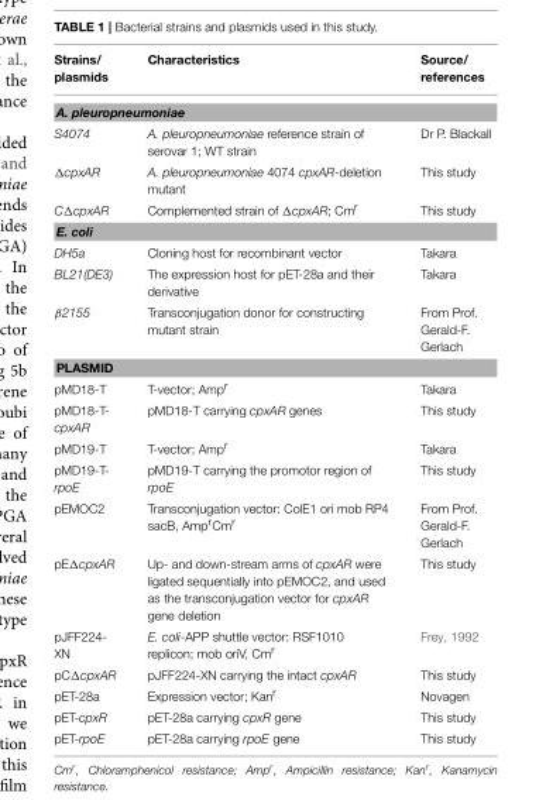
<table><thead><tr><td>Strains/ plasmids</td><td>Characteristics</td><td>Source/ references</td></tr></thead><tbody><tr><td colspan="3">A. pleuropneumoniae</td></tr><tr><td>S4074</td><td>A. pleuropneumoniae reference strain of serovar 1; WT strain</td><td>Dr P. Blackall</td></tr><tr><td>ΔcpxAR</td><td>A. pleuropneumoniae 4074 cpxAR-deletion mutant</td><td>This study</td></tr><tr><td>CΔcpxAR</td><td>Complemented strain of ΔcpxAR; Cm<sup>r</sup></td><td>This study</td></tr><tr><td colspan="3">E. coli</td></tr><tr><td>DH5a</td><td>Cloning host for recombinant vector</td><td>Takara</td></tr><tr><td>BL21(DE3)</td><td>The expression host for pET-28a and their derivative</td><td>Takara</td></tr><tr><td>β2155</td><td>Transconjugation donor for constructing mutant strain</td><td>From Prof. Gerald-F. Gerlach</td></tr><tr><td colspan="3">PLASMID</td></tr><tr><td>pMD18-T</td><td>T-vector; Amp<sup>r</sup></td><td>Takara</td></tr><tr><td>pMD18-T- cpxAR</td><td>pMD18-T carrying cpxAR genes</td><td>This study</td></tr><tr><td>pMD19-T</td><td>T-vector; Amp<sup>r</sup></td><td>Takara</td></tr><tr><td>pMD19-T- rpoE</td><td>pMD19-T carrying the promotor region of rpoE</td><td>This study</td></tr><tr><td>pEMOC2</td><td>Transconjugation vector: ColE1 ori mob RP4 sacB, Amp<sup>r</sup>Cm<sup>r</sup></td><td>From Prof. Gerald-F. Gerlach</td></tr><tr><td>pEΔcpxAR</td><td>Up- and down-stream arms of cpxAR were ligated sequentially into pEMOC2, and used as the transconjugation vector for cpxAR gene deletion</td><td>This study</td></tr><tr><td>pJFF224- XN</td><td>E. coli-APP shuttle vector: RSF1010 replicon; mob oriV, Cm<sup>r</sup></td><td>Frey, 1992</td></tr><tr><td>pCΔcpxAR</td><td>pJFF224-XN carrying the intact cpxAR</td><td>This study</td></tr><tr><td>pET-28a</td><td>Expression vector; Kan<sup>r</sup></td><td>Novagen</td></tr><tr><td>pET-cpxR</td><td>pET-28a carrying cpxR gene</td><td>This study</td></tr><tr><td>pET-rpoE</td><td>pET-28a carrying rpoE gene</td><td>This study</td></tr></tbody></table>